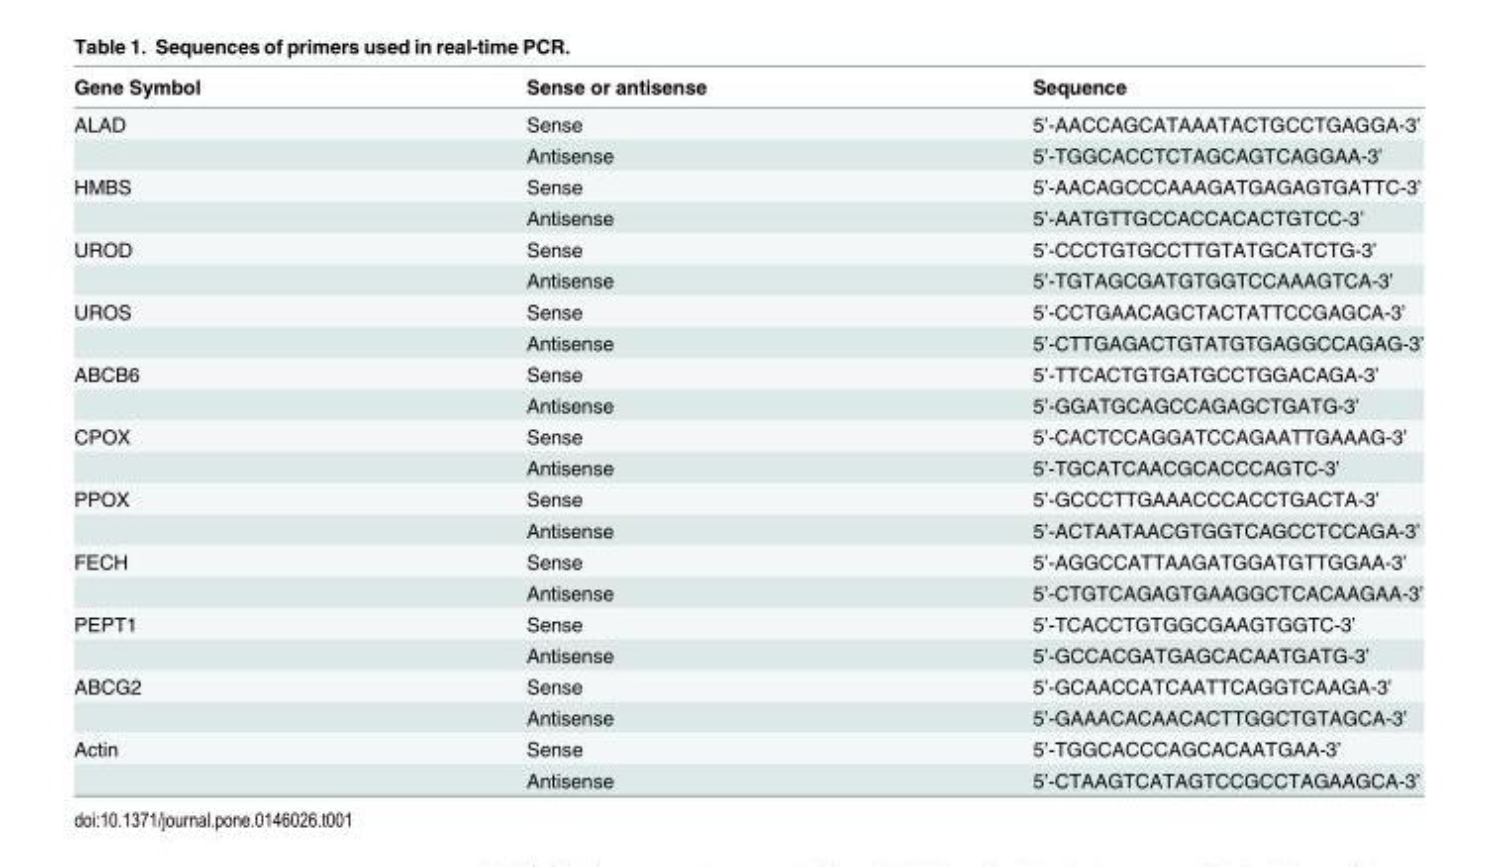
<table><thead><tr><td>Gene Symbol</td><td>Sense or antisense</td><td>Sequence</td></tr></thead><tbody><tr><td rowspan="2">ALAD</td><td>Sense</td><td>5’-AACCAGCATAAATACTGCCTGAGGA-3’</td></tr><tr><td>Antisense</td><td>5’-TGGCACCTCTAGCAGTCAGGAA-3’</td></tr><tr><td rowspan="2">HMBS</td><td>Sense</td><td>5’-AACAGCCCAAAGATGAGAGTGATTC-3’</td></tr><tr><td>Antisense</td><td>5’-AATGTTGCCACCACACTGTCC-3’</td></tr><tr><td rowspan="2">UROD</td><td>Sense</td><td>5’-CCCTGTGCCTTGTATGCATCTG-3’</td></tr><tr><td>Antisense</td><td>5’-TGTAGCGATGTGGTCCAAAGTCA-3’</td></tr><tr><td rowspan="2">UROS</td><td>Sense</td><td>5’-CCTGAACAGCTACTATTCCGAGCA-3’</td></tr><tr><td>Antisense</td><td>5’-CTTGAGACTGTATGTGAGGCCAGAG-3’</td></tr><tr><td rowspan="2">ABCB6</td><td>Sense</td><td>5’-TTCACTGTGATGCCTGGACAGA-3’</td></tr><tr><td>Antisense</td><td>5’-GGATGCAGCCAGAGCTGATG-3’</td></tr><tr><td rowspan="2">CPOX</td><td>Sense</td><td>5’-CACTCCAGGATCCAGAATTGAAAG-3’</td></tr><tr><td>Antisense</td><td>5’-TGCATCAACGCACCCAGTC-3’</td></tr><tr><td rowspan="2">PPOX</td><td>Sense</td><td>5’-GCCCTTGAAACCCACCTGACTA-3’</td></tr><tr><td>Antisense</td><td>5’-ACTAATAACGTGGTCAGCCTCCAGA-3’</td></tr><tr><td rowspan="2">FECH</td><td>Sense</td><td>5’-AGGCCATTAAGATGGATGTTGGAA-3’</td></tr><tr><td>Antisense</td><td>5’-CTGTCAGAGTGAAGGCTCACAAGAA-3’</td></tr><tr><td rowspan="2">PEPT1</td><td>Sense</td><td>5’-TCACCTGTGGCGAAGTGGTC-3’</td></tr><tr><td>Antisense</td><td>5’-GCCACGATGAGCACAATGATG-3’</td></tr><tr><td rowspan="2">ABCG2</td><td>Sense</td><td>5’-GCAACCATCAATTCAGGTCAAGA-3’</td></tr><tr><td>Antisense</td><td>5’-GAAACACAACACTTGGCTGTAGCA-3’</td></tr><tr><td rowspan="2">Actin</td><td>Sense</td><td>5’-TGGCACCCAGCACAATGAA-3’</td></tr><tr><td>Antisense</td><td>5’-CTAAGTCATAGTCCGCCTAGAAGCA-3’</td></tr></tbody></table>